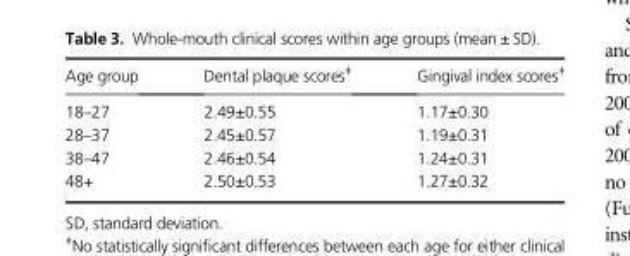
<table><thead><tr><td>Age group</td><td>Dental plaque scores‡</td><td>Gingival index scores‡</td></tr></thead><tbody><tr><td>18–27</td><td>2.49±0.55</td><td>1.17±0.30</td></tr><tr><td>28–37</td><td>2.45±0.57</td><td>1.19±0.31</td></tr><tr><td>38–47</td><td>2.46±0.54</td><td>1.24±0.31</td></tr><tr><td>48+</td><td>2.50±0.53</td><td>1.27±0.32</td></tr></tbody></table>